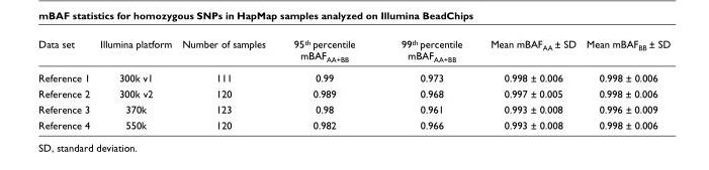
<table><thead><tr><td>Data set</td><td>Illumina platform</td><td>Number of samples</td><td>95<sup>th</sup> percentile mBAF<sub>AA+BB</sub></td><td>99<sup>th</sup> percentile mBAF<sub>AA+BB</sub></td><td>Mean mBAF<sub>AA</sub> ± SD</td><td>Mean mBAF<sub>BB</sub> ± SD</td></tr></thead><tbody><tr><td>Reference 1</td><td>300k v1</td><td>111</td><td>0.99</td><td>0.973</td><td>0.998 ± 0.006</td><td>0.998 ± 0.006</td></tr><tr><td>Reference 2</td><td>300k v2</td><td>120</td><td>0.989</td><td>0.968</td><td>0.997 ± 0.005</td><td>0.998 ± 0.006</td></tr><tr><td>Reference 3</td><td>370k</td><td>123</td><td>0.98</td><td>0.961</td><td>0.993 ± 0.008</td><td>0.996 ± 0.009</td></tr><tr><td>Reference 4</td><td>550k</td><td>120</td><td>0.982</td><td>0.966</td><td>0.993 ± 0.008</td><td>0.998 ± 0.006</td></tr></tbody></table>